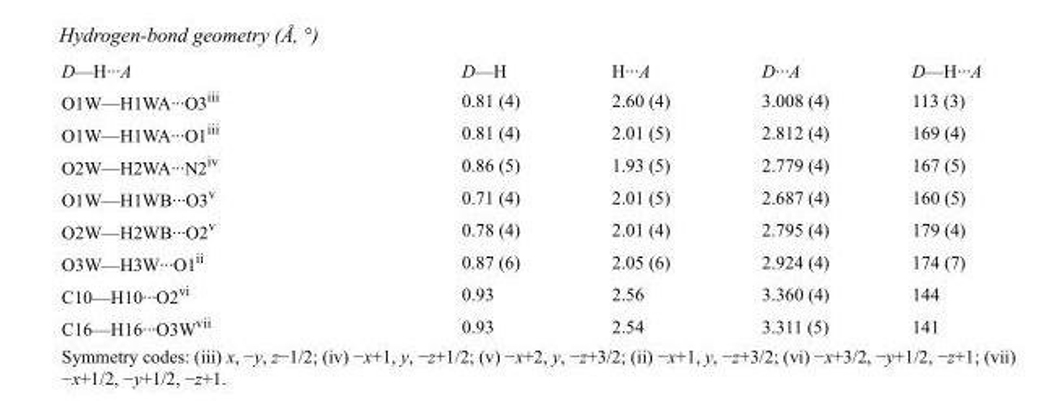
<table><tbody><tr><td>D—H···A</td><td>D—H</td><td>H···A</td><td>D···A</td><td>D—H···A</td></tr><tr><td>O1W—H1WA···O3<sup>iii</sup></td><td>0.81 (4)</td><td>2.60 (4)</td><td>3.008 (4)</td><td>113 (3)</td></tr><tr><td>O1W—H1WA···O1<sup>iii</sup></td><td>0.81 (4)</td><td>2.01 (5)</td><td>2.812 (4)</td><td>169 (4)</td></tr><tr><td>O2W—H2WA···N2<sup>iv</sup></td><td>0.86 (5)</td><td>1.93 (5)</td><td>2.779 (4)</td><td>167 (5)</td></tr><tr><td>O1W—H1WB···O3<sup>v</sup></td><td>0.71 (4)</td><td>2.01 (5)</td><td>2.687 (4)</td><td>160 (5)</td></tr><tr><td>O2W—H2WB···O2<sup>v</sup></td><td>0.78 (4)</td><td>2.01 (4)</td><td>2.795 (4)</td><td>179 (4)</td></tr><tr><td>O3W—H3W···O1<sup>ii</sup></td><td>0.87 (6)</td><td>2.05 (6)</td><td>2.924 (4)</td><td>174 (7)</td></tr><tr><td>C10—H10···O2<sup>vi</sup></td><td>0.93</td><td>2.56</td><td>3.360 (4)</td><td>144</td></tr><tr><td>C16—H16···O3W<sup>vii</sup></td><td>0.93</td><td>2.54</td><td>3.311 (5)</td><td>141</td></tr></tbody></table>